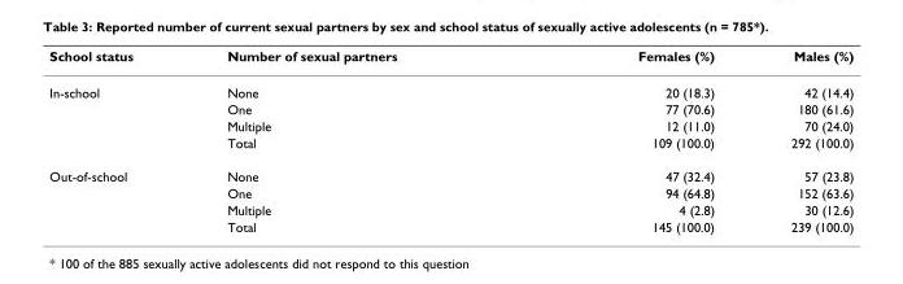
<table><thead><tr><td>School status</td><td>Number of sexual partners</td><td>Females (%)</td><td>Males (%)</td></tr></thead><tbody><tr><td rowspan="4">In-school</td><td>None</td><td>20 (18.3)</td><td>42 (14.4)</td></tr><tr><td>One</td><td>77 (70.6)</td><td>180 (61.6)</td></tr><tr><td>Multiple</td><td>12 (11.0)</td><td>70 (24.0)</td></tr><tr><td>Total</td><td>109 (100.0)</td><td>292 (100.0)</td></tr><tr><td rowspan="4">Out-of-school</td><td>None</td><td>47 (32.4)</td><td>57 (23.8)</td></tr><tr><td>One</td><td>94 (64.8)</td><td>152 (63.6)</td></tr><tr><td>Multiple</td><td>4 (2.8)</td><td>30 (12.6)</td></tr><tr><td>Total</td><td>145 (100.0)</td><td>239 (100.0)</td></tr></tbody></table>